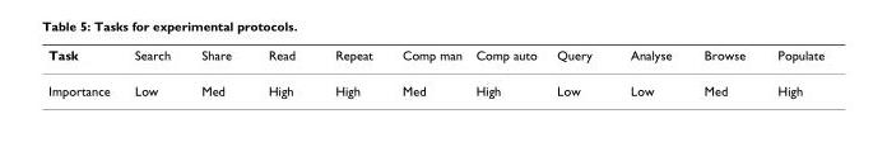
<table><thead><tr><td>Task</td><td>Search</td><td>Share</td><td>Read</td><td>Repeat</td><td>Comp man</td><td>Comp auto</td><td>Query</td><td>Analyse</td><td>Browse</td><td>Populate</td></tr></thead><tbody><tr><td>Importance</td><td>Low</td><td>Med</td><td>High</td><td>High</td><td>Med</td><td>High</td><td>Low</td><td>Low</td><td>Med</td><td>High</td></tr></tbody></table>